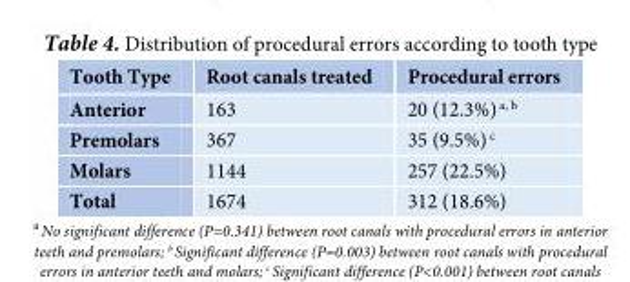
<table><thead><tr><td>Tooth Type</td><td>Root canals treated</td><td>Procedural errors</td></tr></thead><tbody><tr><td>Anterior</td><td>163</td><td>20 (12.3%) <sup>a, b</sup></td></tr><tr><td>Premolars</td><td>367</td><td>35 (9.5%) <sup>c</sup></td></tr><tr><td>Molars</td><td>1144</td><td>257 (22.5%)</td></tr><tr><td>Total</td><td>1674</td><td>312 (18.6%)</td></tr></tbody></table>